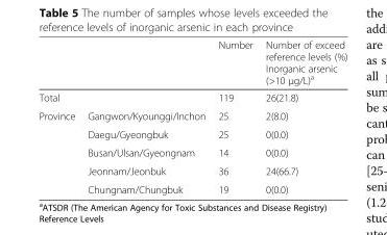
<table><thead><tr><td></td><td></td><td>Number</td><td>Number of exceed reference levels (%) Inorganic arsenic (&gt;10 μg/L)<sup>a</sup></td></tr></thead><tbody><tr><td colspan="2">Total</td><td>119</td><td>26(21.8)</td></tr><tr><td rowspan="5">Province</td><td>Gangwon/Kyounggi/Inchon</td><td>25</td><td>2(8.0)</td></tr><tr><td>Daegu/Gyeongbuk</td><td>25</td><td>0(0.0)</td></tr><tr><td>Busan/Ulsan/Gyeongnam</td><td>14</td><td>0(0.0)</td></tr><tr><td>Jeonnam/Jeonbuk</td><td>36</td><td>24(66.7)</td></tr><tr><td>Chungnam/Chungbuk</td><td>19</td><td>0(0.0)</td></tr></tbody></table>